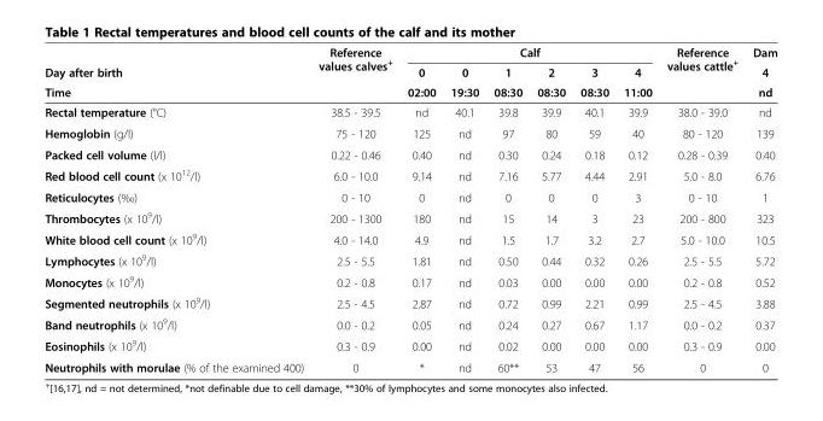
<table><thead><tr><td rowspan="3">Day after birth Time</td><td rowspan="3">Reference values calves<sup>+</sup></td><td colspan="6">Calf</td><td rowspan="3">Reference values cattle<sup>+</sup></td><td rowspan="3">Dam 4 nd</td></tr><tr><td rowspan="2">0 02:00</td><td rowspan="2">0 19:30</td><td rowspan="2">1 08:30</td><td rowspan="2">2 08:30</td><td rowspan="2">3 08:30</td><td rowspan="2">4 11:00</td></tr><tr></tr></thead><tbody><tr><td>Rectal temperature (°C)</td><td>38.5 - 39.5</td><td>nd</td><td>40.1</td><td>39.8</td><td>39.9</td><td>40.1</td><td>39.9</td><td>38.0 - 39.0</td><td>nd</td></tr><tr><td>Hemoglobin (g/l)</td><td>75 - 120</td><td>125</td><td>nd</td><td>97</td><td>80</td><td>59</td><td>40</td><td>80 - 120</td><td>139</td></tr><tr><td>Packed cell volume (l/l)</td><td>0.22 - 0.46</td><td>0.40</td><td>nd</td><td>0.30</td><td>0.24</td><td>0.18</td><td>0.12</td><td>0.28 - 0.39</td><td>0.40</td></tr><tr><td>Red blood cell count (x 10<sup>12</sup>/l)</td><td>6.0 - 10.0</td><td>9.14</td><td>nd</td><td>7.16</td><td>5.77</td><td>4.44</td><td>2.91</td><td>5.0 - 8.0</td><td>6.76</td></tr><tr><td>Reticulocytes (‰)</td><td>0 - 10</td><td>0</td><td>nd</td><td>0</td><td>0</td><td>0</td><td>3</td><td>0 - 10</td><td>1</td></tr><tr><td>Thrombocytes (x 10<sup>9</sup>/l)</td><td>200 - 1300</td><td>180</td><td>nd</td><td>15</td><td>14</td><td>3</td><td>23</td><td>200 - 800</td><td>323</td></tr><tr><td>White blood cell count (x 10<sup>9</sup>/l)</td><td>4.0 - 14.0</td><td>4.9</td><td>nd</td><td>1.5</td><td>1.7</td><td>3.2</td><td>2.7</td><td>5.0 - 10.0</td><td>10.5</td></tr><tr><td>Lymphocytes (x 10<sup>9</sup>/l)</td><td>2.5 - 5.5</td><td>1.81</td><td>nd</td><td>0.50</td><td>0.44</td><td>0.32</td><td>0.26</td><td>2.5 - 5.5</td><td>5.72</td></tr><tr><td>Monocytes (x 10<sup>9</sup>/l)</td><td>0.2 - 0.8</td><td>0.17</td><td>nd</td><td>0.03</td><td>0.00</td><td>0.00</td><td>0.00</td><td>0.2 - 0.8</td><td>0.52</td></tr><tr><td>Segmented neutrophils (x 10<sup>9</sup>/l)</td><td>2.5 - 4.5</td><td>2.87</td><td>nd</td><td>0.72</td><td>0.99</td><td>2.21</td><td>0.99</td><td>2.5 - 4.5</td><td>3.88</td></tr><tr><td>Band neutrophils (x 10<sup>9</sup>/l)</td><td>0.0 - 0.2</td><td>0.05</td><td>nd</td><td>0.24</td><td>0.27</td><td>0.67</td><td>1.17</td><td>0.0 - 0.2</td><td>0.37</td></tr><tr><td>Eosinophils (x 10<sup>9</sup>/l)</td><td>0.3 - 0.9</td><td>0.00</td><td>nd</td><td>0.02</td><td>0.00</td><td>0.00</td><td>0.00</td><td>0.3 - 0.9</td><td>0.00</td></tr><tr><td>Neutrophils with morulae (% of the examined 400)</td><td>0</td><td>*</td><td>nd</td><td>60**</td><td>53</td><td>47</td><td>56</td><td>0</td><td>0</td></tr></tbody></table>